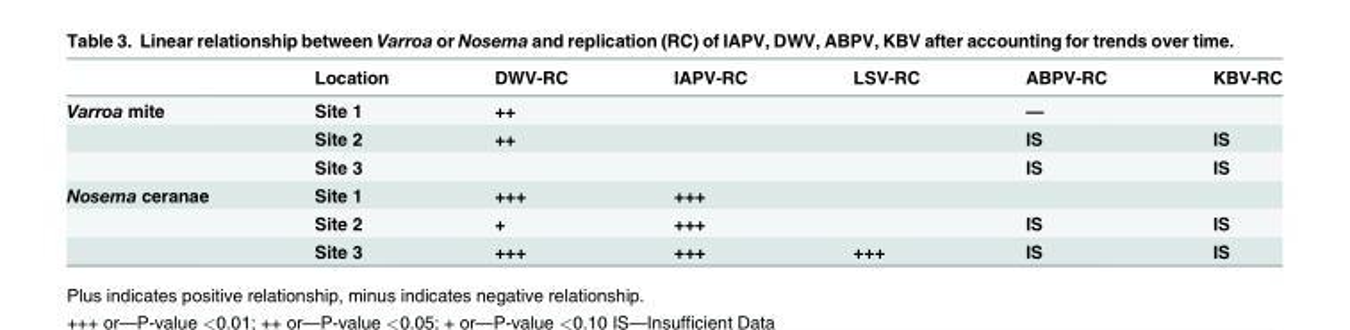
<table><thead><tr><td></td><td>Location</td><td>DWV-RC</td><td>IAPV-RC</td><td>LSV-RC</td><td>ABPV-RC</td><td>KBV-RC</td></tr></thead><tbody><tr><td rowspan="3">Varroa mite</td><td>Site 1</td><td>++</td><td></td><td></td><td>—</td><td></td></tr><tr><td>Site 2</td><td>++</td><td></td><td></td><td>IS</td><td>IS</td></tr><tr><td>Site 3</td><td></td><td></td><td></td><td>IS</td><td>IS</td></tr><tr><td rowspan="3">Nosema ceranae</td><td>Site 1</td><td>+++</td><td>+++</td><td></td><td></td><td></td></tr><tr><td>Site 2</td><td>+</td><td>+++</td><td></td><td>IS</td><td>IS</td></tr><tr><td>Site 3</td><td>+++</td><td>+++</td><td>+++</td><td>IS</td><td>IS</td></tr></tbody></table>